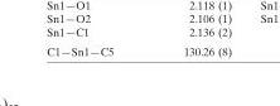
<table><tbody><tr><td>C1—Sn1—C5</td><td>130.26 (8)</td></tr></tbody></table>